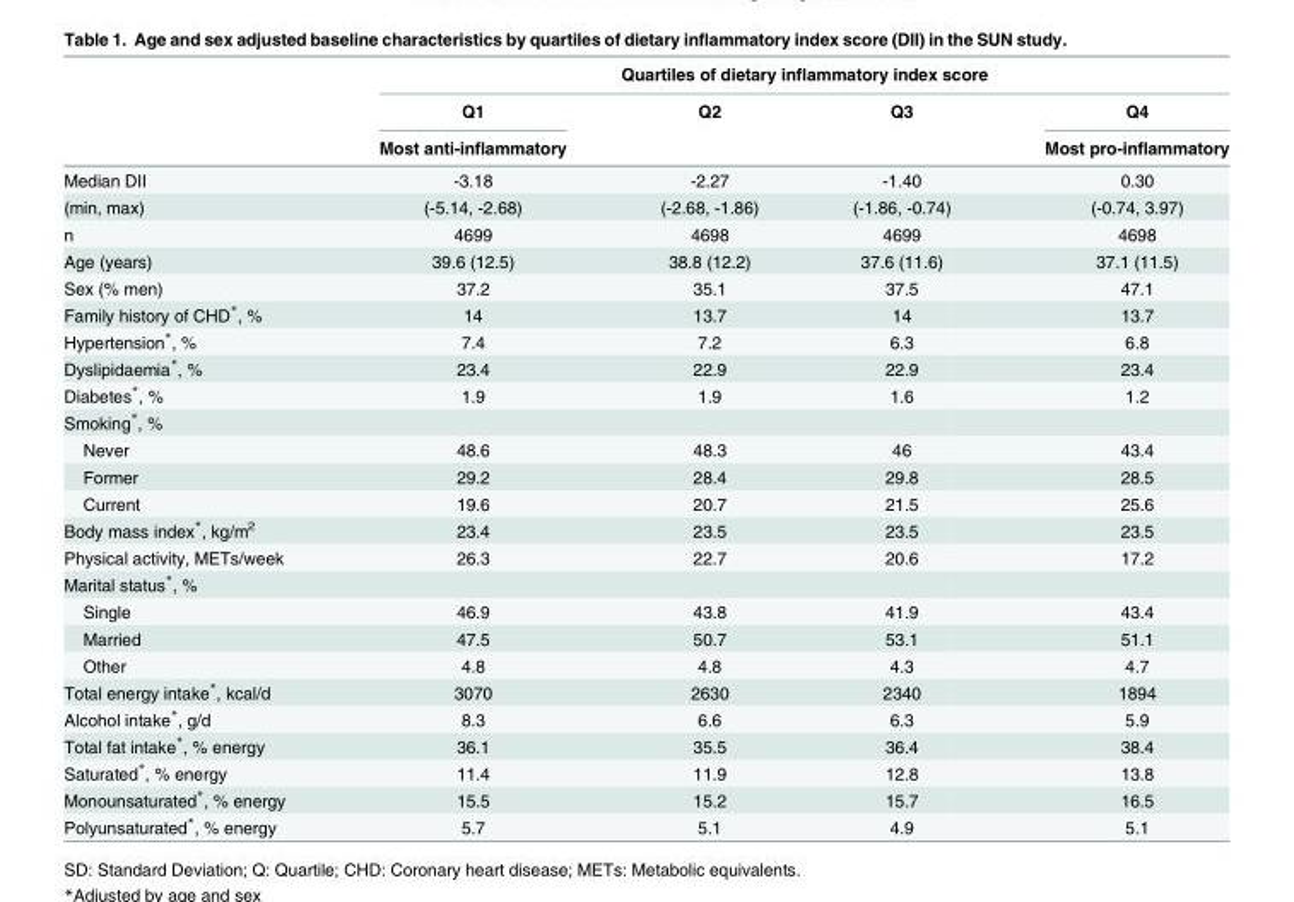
<table><thead><tr><td rowspan="3"></td><td colspan="4">Quartiles of dietary inflammatory index score</td></tr><tr><td rowspan="2">Q1 Most anti-inflammatory</td><td rowspan="2">Q2</td><td rowspan="2">Q3</td><td rowspan="2">Q4 Most pro-inflammatory</td></tr><tr></tr></thead><tbody><tr><td>Median DII</td><td>-3.18</td><td>-2.27</td><td>-1.40</td><td>0.30</td></tr><tr><td>(min, max)</td><td>(-5.14, -2.68)</td><td>(-2.68, -1.86)</td><td>(-1.86, -0.74)</td><td>(-0.74, 3.97)</td></tr><tr><td>n</td><td>4699</td><td>4698</td><td>4699</td><td>4698</td></tr><tr><td>Age (years)</td><td>39.6 (12.5)</td><td>38.8 (12.2)</td><td>37.6 (11.6)</td><td>37.1 (11.5)</td></tr><tr><td>Sex (% men)</td><td>37.2</td><td>35.1</td><td>37.5</td><td>47.1</td></tr><tr><td>Family history of CHD*, %</td><td>14</td><td>13.7</td><td>14</td><td>13.7</td></tr><tr><td>Hypertension*, %</td><td>7.4</td><td>7.2</td><td>6.3</td><td>6.8</td></tr><tr><td>Dyslipidaemia*, %</td><td>23.4</td><td>22.9</td><td>22.9</td><td>23.4</td></tr><tr><td>Diabetes*, %</td><td>1.9</td><td>1.9</td><td>1.6</td><td>1.2</td></tr><tr><td colspan="5">Smoking*, %</td></tr><tr><td>Never</td><td>48.6</td><td>48.3</td><td>46</td><td>43.4</td></tr><tr><td>Former</td><td>29.2</td><td>28.4</td><td>29.8</td><td>28.5</td></tr><tr><td>Current</td><td>19.6</td><td>20.7</td><td>21.5</td><td>25.6</td></tr><tr><td>Body mass index*, kg/m<sup>2</sup></td><td>23.4</td><td>23.5</td><td>23.5</td><td>23.5</td></tr><tr><td>Physical activity, METs/week</td><td>26.3</td><td>22.7</td><td>20.6</td><td>17.2</td></tr><tr><td colspan="5">Marital status*, %</td></tr><tr><td>Single</td><td>46.9</td><td>43.8</td><td>41.9</td><td>43.4</td></tr><tr><td>Married</td><td>47.5</td><td>50.7</td><td>53.1</td><td>51.1</td></tr><tr><td>Other</td><td>4.8</td><td>4.8</td><td>4.3</td><td>4.7</td></tr><tr><td>Total energy intake*, kcal/d</td><td>3070</td><td>2630</td><td>2340</td><td>1894</td></tr><tr><td>Alcohol intake*, g/d</td><td>8.3</td><td>6.6</td><td>6.3</td><td>5.9</td></tr><tr><td>Total fat intake*, % energy</td><td>36.1</td><td>35.5</td><td>36.4</td><td>38.4</td></tr><tr><td>Saturated*, % energy</td><td>11.4</td><td>11.9</td><td>12.8</td><td>13.8</td></tr><tr><td>Monounsaturated*, % energy</td><td>15.5</td><td>15.2</td><td>15.7</td><td>16.5</td></tr><tr><td>Polyunsaturated*, % energy</td><td>5.7</td><td>5.1</td><td>4.9</td><td>5.1</td></tr></tbody></table>